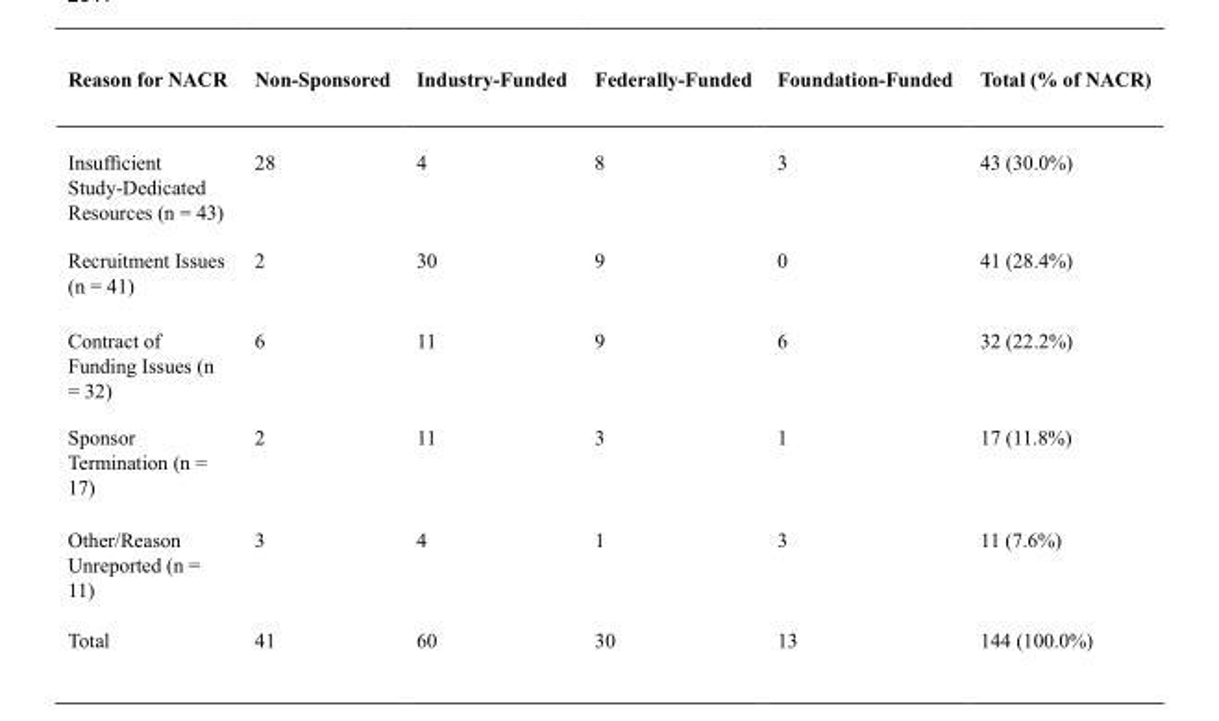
<table><thead><tr><td>Reason for NACR</td><td>Non-Sponsored</td><td>Industry-Funded</td><td>Federally-Funded</td><td>Foundation-Funded</td><td>Total (% of NACR)</td></tr></thead><tbody><tr><td>Insufficient Study-Dedicated Resources (n = 43)</td><td>28</td><td>4</td><td>8</td><td>3</td><td>43 (30.0%)</td></tr><tr><td>Recruitment Issues (n = 41)</td><td>2</td><td>30</td><td>9</td><td>0</td><td>41 (28.4%)</td></tr><tr><td>Contract of Funding Issues (n = 32)</td><td>6</td><td>11</td><td>9</td><td>6</td><td>32 (22.2%)</td></tr><tr><td>Sponsor Termination (n = 17)</td><td>2</td><td>11</td><td>3</td><td>1</td><td>17 (11.8%)</td></tr><tr><td>Other/Reason Unreported (n = 11)</td><td>3</td><td>4</td><td>1</td><td>3</td><td>11 (7.6%)</td></tr><tr><td>Total</td><td>41</td><td>60</td><td>30</td><td>13</td><td>144 (100.0%)</td></tr></tbody></table>